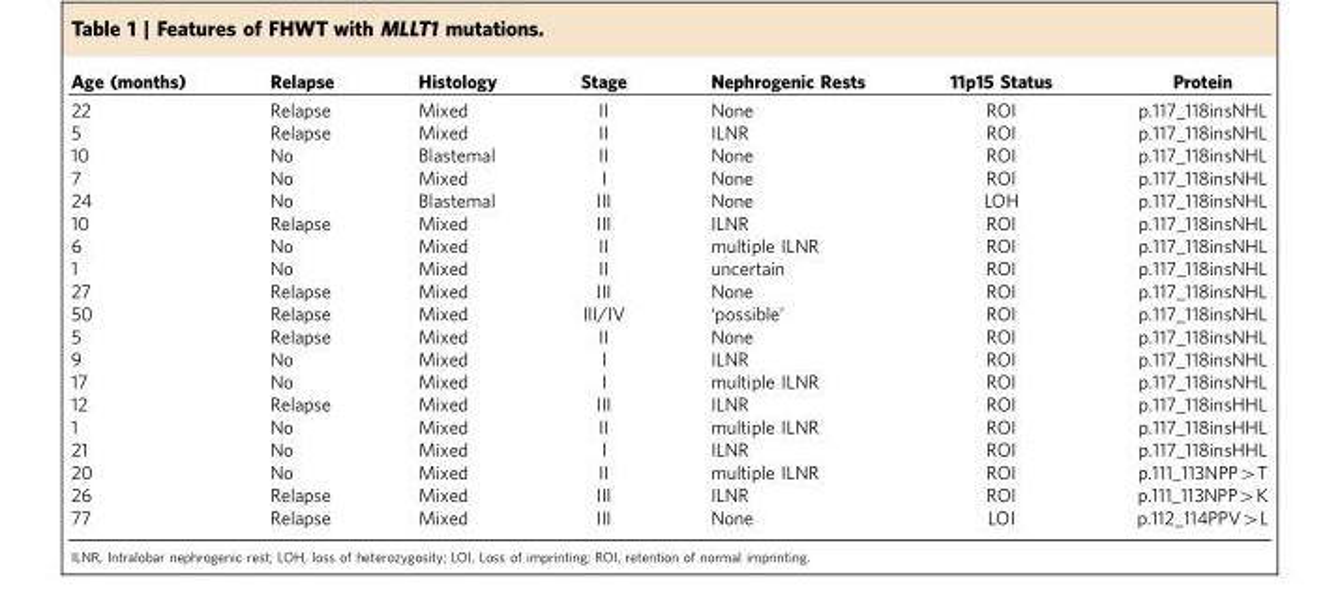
<table><thead><tr><td>Age (months)</td><td>Relapse</td><td>Histology</td><td>Stage</td><td>Nephrogenic Rests</td><td>11p15 Status</td><td>Protein</td></tr></thead><tbody><tr><td>22</td><td>Relapse</td><td>Mixed</td><td>II</td><td>None</td><td>ROI</td><td>p.117_118insNHL</td></tr><tr><td>5</td><td>Relapse</td><td>Mixed</td><td>II</td><td>ILNR</td><td>ROI</td><td>p.117_118insNHL</td></tr><tr><td>10</td><td>No</td><td>Blastemal</td><td>II</td><td>None</td><td>ROI</td><td>p.117_118insNHL</td></tr><tr><td>7</td><td>No</td><td>Mixed</td><td>I</td><td>None</td><td>ROI</td><td>p.117_118insNHL</td></tr><tr><td>24</td><td>No</td><td>Blastemal</td><td>III</td><td>None</td><td>LOH</td><td>p.117_118insNHL</td></tr><tr><td>10</td><td>Relapse</td><td>Mixed</td><td>III</td><td>ILNR</td><td>ROI</td><td>p.117_118insNHL</td></tr><tr><td>6</td><td>No</td><td>Mixed</td><td>II</td><td>multiple ILNR</td><td>ROI</td><td>p.117_118insNHL</td></tr><tr><td>1</td><td>No</td><td>Mixed</td><td>II</td><td>uncertain</td><td>ROI</td><td>p.117_118insNHL</td></tr><tr><td>27</td><td>Relapse</td><td>Mixed</td><td>III</td><td>None</td><td>ROI</td><td>p.117_118insNHL</td></tr><tr><td>50</td><td>Relapse</td><td>Mixed</td><td>III/IV</td><td>‘possible’</td><td>ROI</td><td>p.117_118insNHL</td></tr><tr><td>5</td><td>Relapse</td><td>Mixed</td><td>II</td><td>None</td><td>ROI</td><td>p.117_118insNHL</td></tr><tr><td>9</td><td>No</td><td>Mixed</td><td>I</td><td>ILNR</td><td>ROI</td><td>p.117_118insNHL</td></tr><tr><td>17</td><td>No</td><td>Mixed</td><td>I</td><td>multiple ILNR</td><td>ROI</td><td>p.117_118insNHL</td></tr><tr><td>12</td><td>Relapse</td><td>Mixed</td><td>III</td><td>ILNR</td><td>ROI</td><td>p.117_118insHHL</td></tr><tr><td>1</td><td>No</td><td>Mixed</td><td>II</td><td>multiple ILNR</td><td>ROI</td><td>p.117_118insHHL</td></tr><tr><td>21</td><td>No</td><td>Mixed</td><td>I</td><td>ILNR</td><td>ROI</td><td>p.117_118insHHL</td></tr><tr><td>20</td><td>No</td><td>Mixed</td><td>II</td><td>multiple ILNR</td><td>ROI</td><td>p.111_113NPP&gt;T</td></tr><tr><td>26</td><td>Relapse</td><td>Mixed</td><td>III</td><td>ILNR</td><td>ROI</td><td>p.111_113NPP&gt;K</td></tr><tr><td>77</td><td>Relapse</td><td>Mixed</td><td>III</td><td>None</td><td>LOI</td><td>p.112_114PPV&gt;L</td></tr></tbody></table>